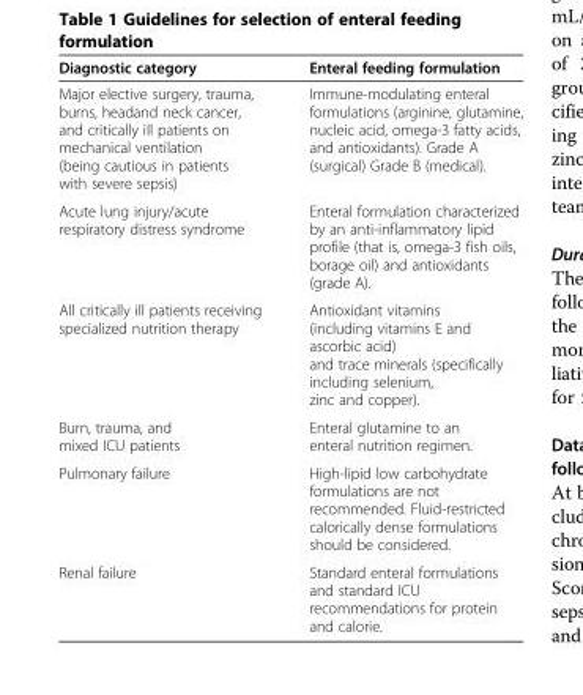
<table><thead><tr><td>Diagnostic category</td><td>Enteral feeding formulation</td></tr></thead><tbody><tr><td>Major elective surgery, trauma, burns, headand neck cancer, and critically ill patients on mechanical ventilation (being cautious in patients with severe sepsis)</td><td>Immune-modulating enteral formulations (arginine, glutamine, nucleic acid, omega-3 fatty acids, and antioxidants). Grade A (surgical) Grade B (medical).</td></tr><tr><td>Acute lung injury/acute respiratory distress syndrome</td><td>Enteral formulation characterized by an anti-inflammatory lipid profile (that is, omega-3 fish oils, borage oil) and antioxidants (grade A).</td></tr><tr><td>All critically ill patients receiving specialized nutrition therapy</td><td>Antioxidant vitamins (including vitamins E and ascorbic acid) and trace minerals (specifically including selenium, zinc and copper).</td></tr><tr><td>Burn, trauma, and mixed ICU patients</td><td>Enteral glutamine to an enteral nutrition regimen.</td></tr><tr><td>Pulmonary failure</td><td>High-lipid low carbohydrate formulations are not recommended. Fluid-restricted calorically dense formulations should be considered.</td></tr><tr><td>Renal failure</td><td>Standard enteral formulations and standard ICU recommendations for protein and calorie.</td></tr></tbody></table>